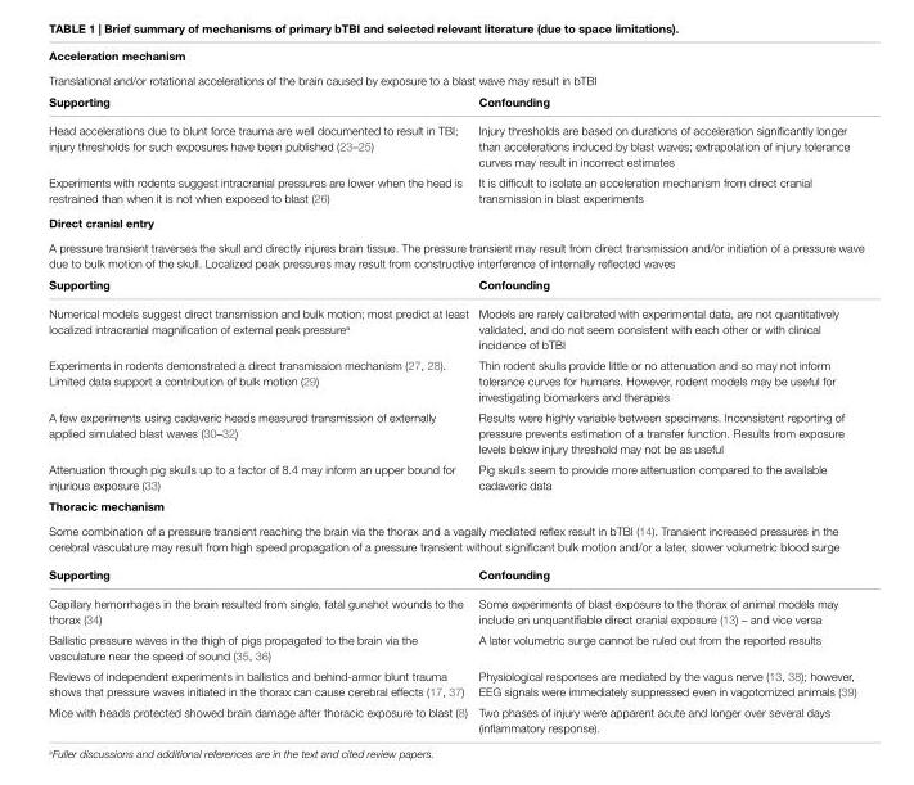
<table><tbody><tr><td colspan="2">Acceleration mechanism</td></tr><tr><td colspan="2">Translational and/or rotational accelerations of the brain caused by exposure to a blast wave may result in bTBI</td></tr><tr><td>Supporting</td><td>Confounding</td></tr><tr><td>Head accelerations due to blunt force trauma are well documented to result in TBI; injury thresholds for such exposures have been published (23–25)</td><td>Injury thresholds are based on durations of acceleration significantly longer than accelerations induced by blast waves; extrapolation of injury tolerance curves may result in incorrect estimates</td></tr><tr><td>Experiments with rodents suggest intracranial pressures are lower when the head is restrained than when it is not when exposed to blast (26)</td><td>It is difficult to isolate an acceleration mechanism from direct cranial transmission in blast experiments</td></tr><tr><td colspan="2">Direct cranial entry</td></tr><tr><td colspan="2">A pressure transient traverses the skull and directly injures brain tissue. The pressure transient may result from direct transmission and/or initiation of a pressure wave due to bulk motion of the skull. Localized peak pressures may result from constructive interference of internally reflected waves</td></tr><tr><td>Supporting</td><td>Confounding</td></tr><tr><td>Numerical models suggest direct transmission and bulk motion; most predict at least localized intracranial magnification of external peak pressure<sup>a</sup></td><td>Models are rarely calibrated with experimental data, are not quantitatively validated, and do not seem consistent with each other or with clinical incidence of bTBI</td></tr><tr><td>Experiments in rodents demonstrated a direct transmission mechanism (27, 28). Limited data support a contribution of bulk motion (29)</td><td>Thin rodent skulls provide little or no attenuation and so may not inform tolerance curves for humans. However, rodent models may be useful for investigating biomarkers and therapies</td></tr><tr><td>A few experiments using cadaveric heads measured transmission of externally applied simulated blast waves (30–32)</td><td>Results were highly variable between specimens. Inconsistent reporting of pressure prevents estimation of a transfer function. Results from exposure levels below injury threshold may not be as useful</td></tr><tr><td>Attenuation through pig skulls up to a factor of 8.4 may inform an upper bound for injurious exposure (33)</td><td>Pig skulls seem to provide more attenuation compared to the available cadaveric data</td></tr><tr><td colspan="2">Thoracic mechanism</td></tr><tr><td colspan="2">Some combination of a pressure transient reaching the brain via the thorax and a vagally mediated reflex result in bTBI (14). Transient increased pressures in the cerebral vasculature may result from high speed propagation of a pressure transient without significant bulk motion and/or a later, slower volumetric blood surge</td></tr><tr><td>Supporting</td><td>Confounding</td></tr><tr><td>Capillary hemorrhages in the brain resulted from single, fatal gunshot wounds to the thorax (34)</td><td>Some experiments of blast exposure to the thorax of animal models may include an unquantifiable direct cranial exposure (13) – and vice versa</td></tr><tr><td>Ballistic pressure waves in the thigh of pigs propagated to the brain via the vasculature near the speed of sound (35, 36)</td><td>A later volumetric surge cannot be ruled out from the reported results</td></tr><tr><td>Reviews of independent experiments in ballistics and behind-armor blunt trauma shows that pressure waves initiated in the thorax can cause cerebral effects (17, 37)</td><td>Physiological responses are mediated by the vagus nerve (13, 38); however, EEG signals were immediately suppressed even in vagotomized animals (39)</td></tr><tr><td>Mice with heads protected showed brain damage after thoracic exposure to blast (8)</td><td>Two phases of injury were apparent acute and longer over several days (inflammatory response).</td></tr></tbody></table>